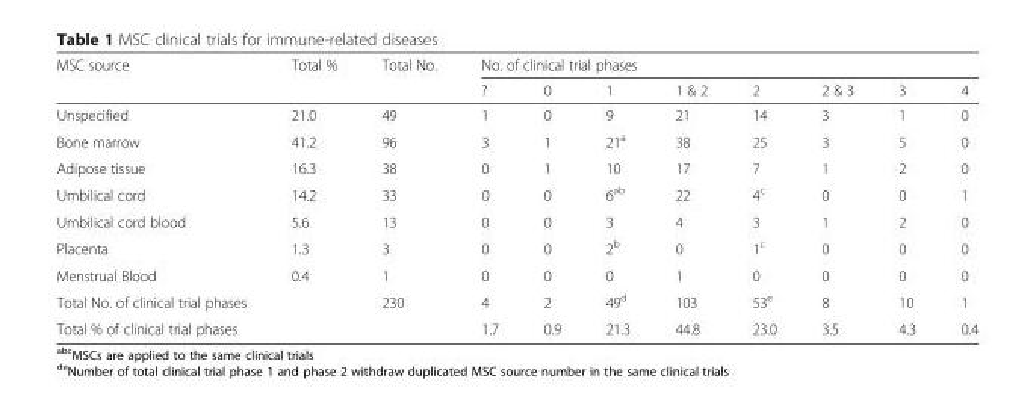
<table><thead><tr><td rowspan="2">MSC source</td><td rowspan="2">Total %</td><td rowspan="2">Total No.</td><td colspan="8">No. of clinical trial phases</td></tr><tr><td>?</td><td>0</td><td>1</td><td>1 &amp; 2</td><td>2</td><td>2 &amp; 3</td><td>3</td><td>4</td></tr></thead><tbody><tr><td>Unspecified</td><td>21.0</td><td>49</td><td>1</td><td>0</td><td>9</td><td>21</td><td>14</td><td>3</td><td>1</td><td>0</td></tr><tr><td>Bone marrow</td><td>41.2</td><td>96</td><td>3</td><td>1</td><td>21<sup>a</sup></td><td>38</td><td>25</td><td>3</td><td>5</td><td>0</td></tr><tr><td>Adipose tissue</td><td>16.3</td><td>38</td><td>0</td><td>1</td><td>10</td><td>17</td><td>7</td><td>1</td><td>2</td><td>0</td></tr><tr><td>Umbilical cord</td><td>14.2</td><td>33</td><td>0</td><td>0</td><td>6<sup>ab</sup></td><td>22</td><td>4<sup>c</sup></td><td>0</td><td>0</td><td>1</td></tr><tr><td>Umbilical cord blood</td><td>5.6</td><td>13</td><td>0</td><td>0</td><td>3</td><td>4</td><td>3</td><td>1</td><td>2</td><td>0</td></tr><tr><td>Placenta</td><td>1.3</td><td>3</td><td>0</td><td>0</td><td>2<sup>b</sup></td><td>0</td><td>1<sup>c</sup></td><td>0</td><td>0</td><td>0</td></tr><tr><td>Menstrual Blood</td><td>0.4</td><td>1</td><td>0</td><td>0</td><td>0</td><td>1</td><td>0</td><td>0</td><td>0</td><td>0</td></tr><tr><td>Total No. of clinical trial phases</td><td></td><td>230</td><td>4</td><td>2</td><td>49<sup>d</sup></td><td>103</td><td>53<sup>e</sup></td><td>8</td><td>10</td><td>1</td></tr><tr><td>Total % of clinical trial phases</td><td></td><td></td><td>1.7</td><td>0.9</td><td>21.3</td><td>44.8</td><td>23.0</td><td>3.5</td><td>4.3</td><td>0.4</td></tr></tbody></table>